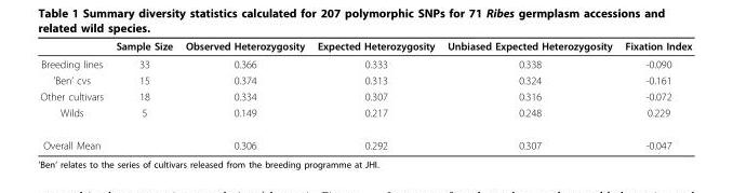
<table><thead><tr><td></td><td>Sample Size</td><td>Observed Heterozygosity</td><td>Expected Heterozygosity</td><td>Unbiased Expected Heterozygosity</td><td>Fixation Index</td></tr></thead><tbody><tr><td>Breeding lines</td><td>33</td><td>0.366</td><td>0.333</td><td>0.338</td><td>-0.090</td></tr><tr><td>’Ben’ cvs</td><td>15</td><td>0.374</td><td>0.313</td><td>0.324</td><td>-0.161</td></tr><tr><td>Other cultivars</td><td>18</td><td>0.334</td><td>0.307</td><td>0.316</td><td>-0.072</td></tr><tr><td>Wilds</td><td>5</td><td>0.149</td><td>0.217</td><td>0.248</td><td>0.229</td></tr><tr><td>Overall Mean</td><td></td><td>0.306</td><td>0.292</td><td>0.307</td><td>-0.047</td></tr></tbody></table>